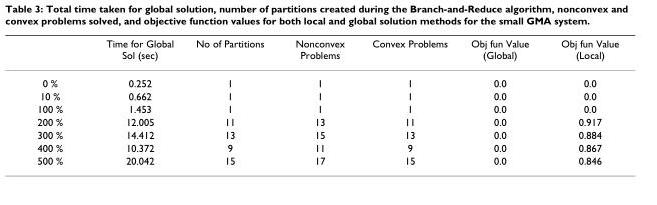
<table><thead><tr><td></td><td>Time for Global Sol (sec)</td><td>No of Partitions</td><td>Nonconvex Problems</td><td>Convex Problems</td><td>Obj fun Value (Global)</td><td>Obj fun Value (Local)</td></tr></thead><tbody><tr><td>0 %</td><td>0.252</td><td>1</td><td>1</td><td>1</td><td>0.0</td><td>0.0</td></tr><tr><td>10 %</td><td>0.662</td><td>1</td><td>1</td><td>1</td><td>0.0</td><td>0.0</td></tr><tr><td>100 %</td><td>1.453</td><td>1</td><td>1</td><td>1</td><td>0.0</td><td>0.0</td></tr><tr><td>200 %</td><td>12.005</td><td>11</td><td>13</td><td>11</td><td>0.0</td><td>0.917</td></tr><tr><td>300 %</td><td>14.412</td><td>13</td><td>15</td><td>13</td><td>0.0</td><td>0.884</td></tr><tr><td>400 %</td><td>10.372</td><td>9</td><td>11</td><td>9</td><td>0.0</td><td>0.867</td></tr><tr><td>500 %</td><td>20.042</td><td>15</td><td>17</td><td>15</td><td>0.0</td><td>0.846</td></tr></tbody></table>